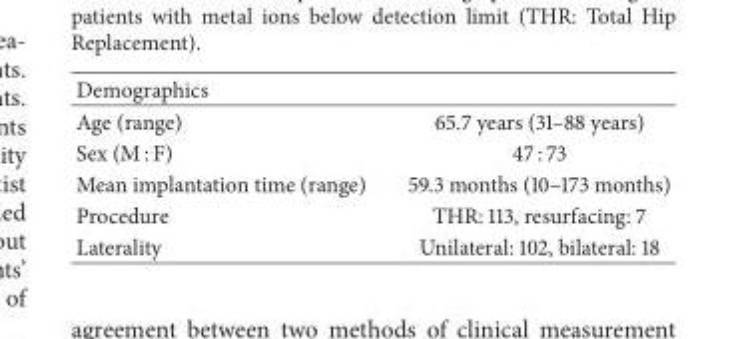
<table><thead><tr><td>Demographics</td><td></td></tr></thead><tbody><tr><td>Age (range)</td><td>65.7 years (31–88 years)</td></tr><tr><td>Sex (M : F)</td><td>47 : 73</td></tr><tr><td>Mean implantation time (range)</td><td>59.3 months (10–173 months)</td></tr><tr><td>Procedure</td><td>THR: 113, resurfacing: 7</td></tr><tr><td>Laterality</td><td>Unilateral: 102, bilateral: 18</td></tr></tbody></table>